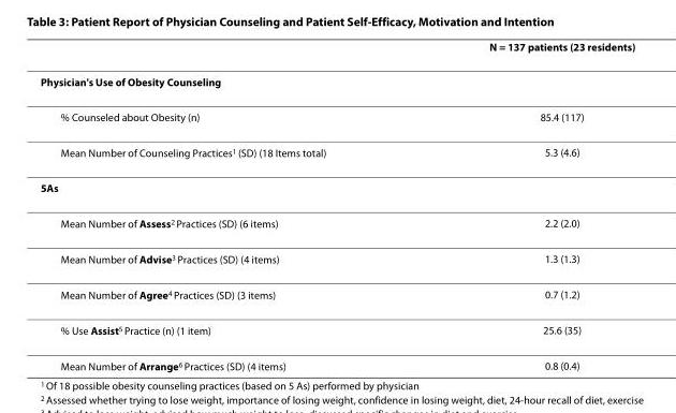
<table><thead><tr><td></td><td>N = 137 patients (23 residents)</td></tr></thead><tbody><tr><td colspan="2">Physician&#x27;s Use of Obesity Counseling</td></tr><tr><td>% Counseled about Obesity (n)</td><td>85.4 (117)</td></tr><tr><td>Mean Number of Counseling Practices<sup>1</sup> (SD) (18 Items total)</td><td>5.3 (4.6)</td></tr><tr><td colspan="2">5As</td></tr><tr><td>Mean Number of Assess<sup>2</sup> Practices (SD) (6 items)</td><td>2.2 (2.0)</td></tr><tr><td>Mean Number of Advise<sup>3</sup> Practices (SD) (4 items)</td><td>1.3 (1.3)</td></tr><tr><td>Mean Number of Agree<sup>4</sup> Practices (SD) (3 items)</td><td>0.7 (1.2)</td></tr><tr><td>% Use Assist<sup>5</sup> Practice (n) (1 item)</td><td>25.6 (35)</td></tr><tr><td>Mean Number of Arrange<sup>6</sup> Practices (SD) (4 items)</td><td>0.8 (0.4)</td></tr></tbody></table>